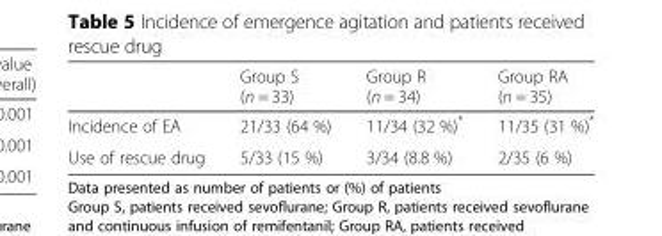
<table><thead><tr><td></td><td>Group S (n = 33)</td><td>Group R (n = 34)</td><td>Group RA (n = 35)</td></tr></thead><tbody><tr><td>Incidence of EA</td><td>21/33 (64 %)</td><td>11/34 (32 %)*</td><td>11/35 (31 %)*</td></tr><tr><td>Use of rescue drug</td><td>5/33 (15 %)</td><td>3/34 (8.8 %)</td><td>2/35 (6 %)</td></tr></tbody></table>